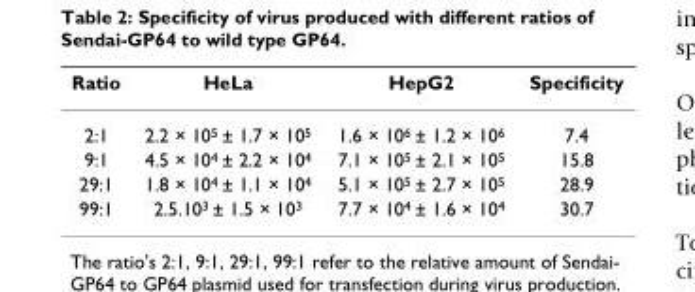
<table><thead><tr><td>Ratio</td><td>HeLa</td><td>HepG2</td><td>Specificity</td></tr></thead><tbody><tr><td>2:1</td><td>2.2 × 10<sup>5</sup> ± 1.7 × 10<sup>5</sup></td><td>1.6 × 10<sup>6</sup> ± 1.2 × 10<sup>6</sup></td><td>7.4</td></tr><tr><td>9:1</td><td>4.5 × 10<sup>4</sup> ± 2.2 × 10<sup>4</sup></td><td>7.1 × 10<sup>5</sup> ± 2.1 × 10<sup>5</sup></td><td>15.8</td></tr><tr><td>29:1</td><td>1.8 × 10<sup>4</sup> ± 1.1 × 10<sup>4</sup></td><td>5.1 × 10<sup>5</sup> ± 2.7 × 10<sup>5</sup></td><td>28.9</td></tr><tr><td>99:1</td><td>2.5.10<sup>3</sup> ± 1.5 × 10<sup>3</sup></td><td>7.7 × 10<sup>4</sup> ± 1.6 × 10<sup>4</sup></td><td>30.7</td></tr></tbody></table>